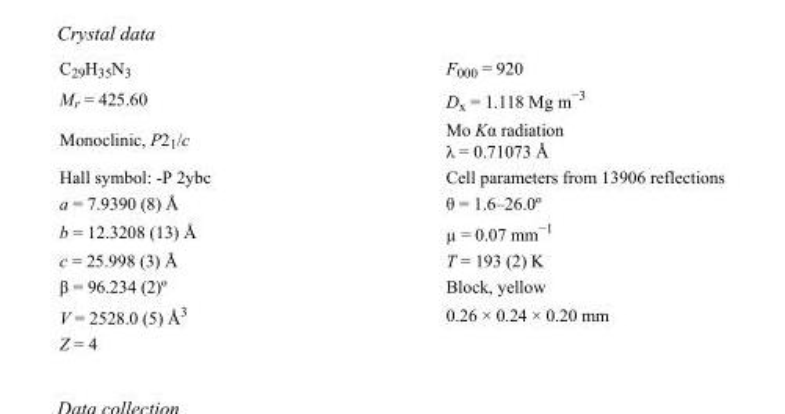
<table><tbody><tr><td>C<sub>29</sub>H<sub>35</sub>N<sub>3</sub></td><td>F<sub>000</sub> = 920</td></tr><tr><td>M<sub>r</sub> = 425.60</td><td>D<sub>x</sub> = 1.118 Mg m<sup>−3</sup></td></tr><tr><td>Monoclinic, P2<sub>1</sub>/c</td><td>Mo Kα radiation λ = 0.71073 Å</td></tr><tr><td>Hall symbol: -P 2ybc</td><td>Cell parameters from 13906 reflections</td></tr><tr><td>a = 7.9390 (8) Å</td><td>θ = 1.6–26.0º</td></tr><tr><td>b = 12.3208 (13) Å</td><td>µ = 0.07 mm<sup>−1</sup></td></tr><tr><td>c = 25.998 (3) Å</td><td>T = 193 (2) K</td></tr><tr><td>β = 96.234 (2)º</td><td>Block, yellow</td></tr><tr><td>V = 2528.0 (5) Å<sup>3</sup></td><td>0.26 × 0.24 × 0.20 mm</td></tr><tr><td>Z = 4</td><td></td></tr></tbody></table>